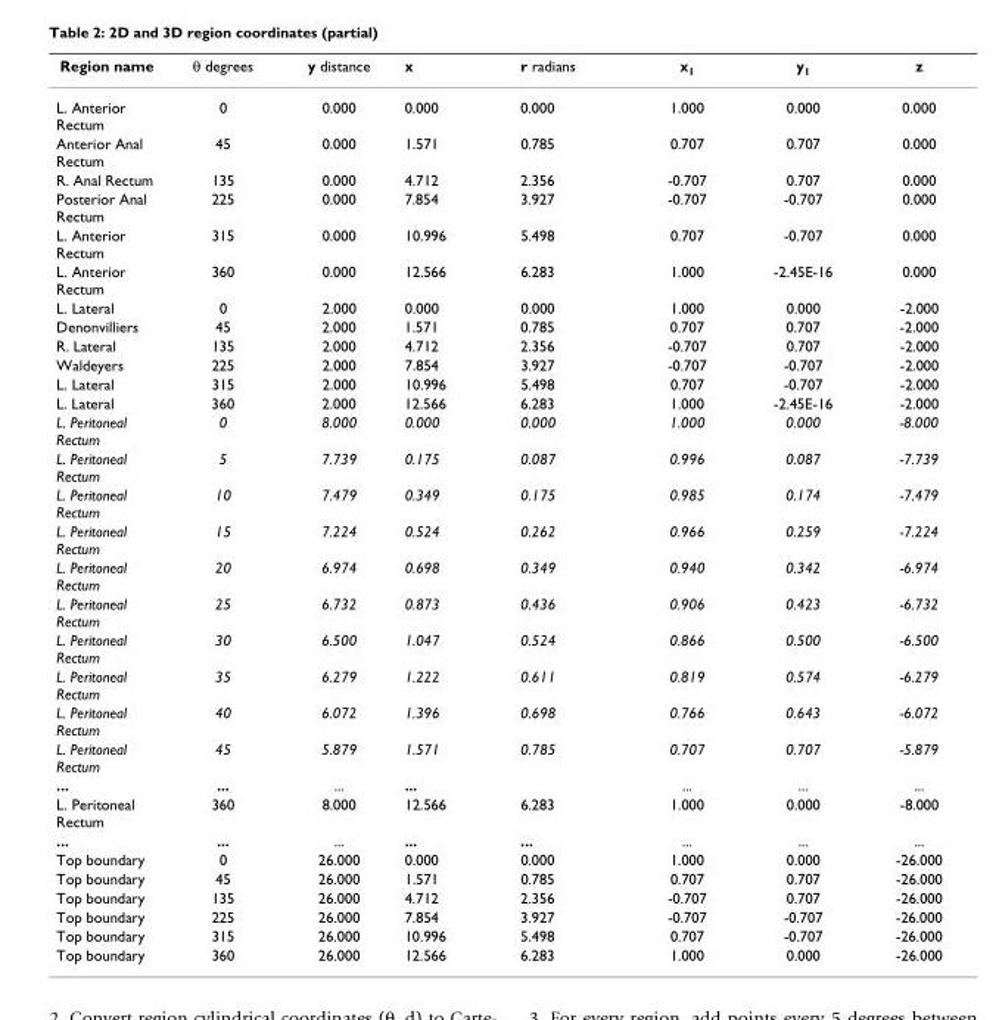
<table><thead><tr><td>Region name</td><td>θ degrees</td><td>y distance</td><td>x</td><td>r radians</td><td>x<sub>1</sub></td><td>y<sub>1</sub></td><td>z</td></tr></thead><tbody><tr><td>L. Anterior Rectum</td><td>0</td><td>0.000</td><td>0.000</td><td>0.000</td><td>1.000</td><td>0.000</td><td>0.000</td></tr><tr><td>Anterior Anal Rectum</td><td>45</td><td>0.000</td><td>1.571</td><td>0.785</td><td>0.707</td><td>0.707</td><td>0.000</td></tr><tr><td>R. Anal Rectum</td><td>135</td><td>0.000</td><td>4.712</td><td>2.356</td><td>-0.707</td><td>0.707</td><td>0.000</td></tr><tr><td>Posterior Anal Rectum</td><td>225</td><td>0.000</td><td>7.854</td><td>3.927</td><td>-0.707</td><td>-0.707</td><td>0.000</td></tr><tr><td>L. Anterior Rectum</td><td>315</td><td>0.000</td><td>10.996</td><td>5.498</td><td>0.707</td><td>-0.707</td><td>0.000</td></tr><tr><td>L. Anterior Rectum</td><td>360</td><td>0.000</td><td>12.566</td><td>6.283</td><td>1.000</td><td>-2.45E-16</td><td>0.000</td></tr><tr><td>L. Lateral</td><td>0</td><td>2.000</td><td>0.000</td><td>0.000</td><td>1.000</td><td>0.000</td><td>-2.000</td></tr><tr><td>Denonvilliers</td><td>45</td><td>2.000</td><td>1.571</td><td>0.785</td><td>0.707</td><td>0.707</td><td>-2.000</td></tr><tr><td>R. Lateral</td><td>135</td><td>2.000</td><td>4.712</td><td>2.356</td><td>-0.707</td><td>0.707</td><td>-2.000</td></tr><tr><td>Waldeyers</td><td>225</td><td>2.000</td><td>7.854</td><td>3.927</td><td>-0.707</td><td>-0.707</td><td>-2.000</td></tr><tr><td>L. Lateral</td><td>315</td><td>2.000</td><td>10.996</td><td>5.498</td><td>0.707</td><td>-0.707</td><td>-2.000</td></tr><tr><td>L. Lateral</td><td>360</td><td>2.000</td><td>12.566</td><td>6.283</td><td>1.000</td><td>-2.45E-16</td><td>-2.000</td></tr><tr><td>L. Peritoneal Rectum</td><td>0</td><td>8.000</td><td>0.000</td><td>0.000</td><td>1.000</td><td>0.000</td><td>-8.000</td></tr><tr><td>L. Peritoneal Rectum</td><td>5</td><td>7.739</td><td>0.175</td><td>0.087</td><td>0.996</td><td>0.087</td><td>-7.739</td></tr><tr><td>L. Peritoneal Rectum</td><td>10</td><td>7.479</td><td>0.349</td><td>0.175</td><td>0.985</td><td>0.174</td><td>-7.479</td></tr><tr><td>L. Peritoneal Rectum</td><td>15</td><td>7.224</td><td>0.524</td><td>0.262</td><td>0.966</td><td>0.259</td><td>-7.224</td></tr><tr><td>L. Peritoneal Rectum</td><td>20</td><td>6.974</td><td>0.698</td><td>0.349</td><td>0.940</td><td>0.342</td><td>-6.974</td></tr><tr><td>L. Peritoneal Rectum</td><td>25</td><td>6.732</td><td>0.873</td><td>0.436</td><td>0.906</td><td>0.423</td><td>-6.732</td></tr><tr><td>L. Peritoneal Rectum</td><td>30</td><td>6.500</td><td>1.047</td><td>0.524</td><td>0.866</td><td>0.500</td><td>-6.500</td></tr><tr><td>L. Peritoneal Rectum</td><td>35</td><td>6.279</td><td>1.222</td><td>0.611</td><td>0.819</td><td>0.574</td><td>-6.279</td></tr><tr><td>L. Peritoneal Rectum</td><td>40</td><td>6.072</td><td>1.396</td><td>0.698</td><td>0.766</td><td>0.643</td><td>-6.072</td></tr><tr><td>L. Peritoneal Rectum</td><td>45</td><td>5.879</td><td>1.571</td><td>0.785</td><td>0.707</td><td>0.707</td><td>-5.879</td></tr><tr><td>...</td><td>...</td><td>...</td><td>...</td><td></td><td>...</td><td>...</td><td>...</td></tr><tr><td>L. Peritoneal Rectum</td><td>360</td><td>8.000</td><td>12.566</td><td>6.283</td><td>1.000</td><td>0.000</td><td>-8.000</td></tr><tr><td>...</td><td>...</td><td>...</td><td>...</td><td>...</td><td>...</td><td>...</td><td>...</td></tr><tr><td>Top boundary</td><td>0</td><td>26.000</td><td>0.000</td><td>0.000</td><td>1.000</td><td>0.000</td><td>-26.000</td></tr><tr><td>Top boundary</td><td>45</td><td>26.000</td><td>1.571</td><td>0.785</td><td>0.707</td><td>0.707</td><td>-26.000</td></tr><tr><td>Top boundary</td><td>135</td><td>26.000</td><td>4.712</td><td>2.356</td><td>-0.707</td><td>0.707</td><td>-26.000</td></tr><tr><td>Top boundary</td><td>225</td><td>26.000</td><td>7.854</td><td>3.927</td><td>-0.707</td><td>-0.707</td><td>-26.000</td></tr><tr><td>Top boundary</td><td>315</td><td>26.000</td><td>10.996</td><td>5.498</td><td>0.707</td><td>-0.707</td><td>-26.000</td></tr><tr><td>Top boundary</td><td>360</td><td>26.000</td><td>12.566</td><td>6.283</td><td>1.000</td><td>0.000</td><td>-26.000</td></tr></tbody></table>